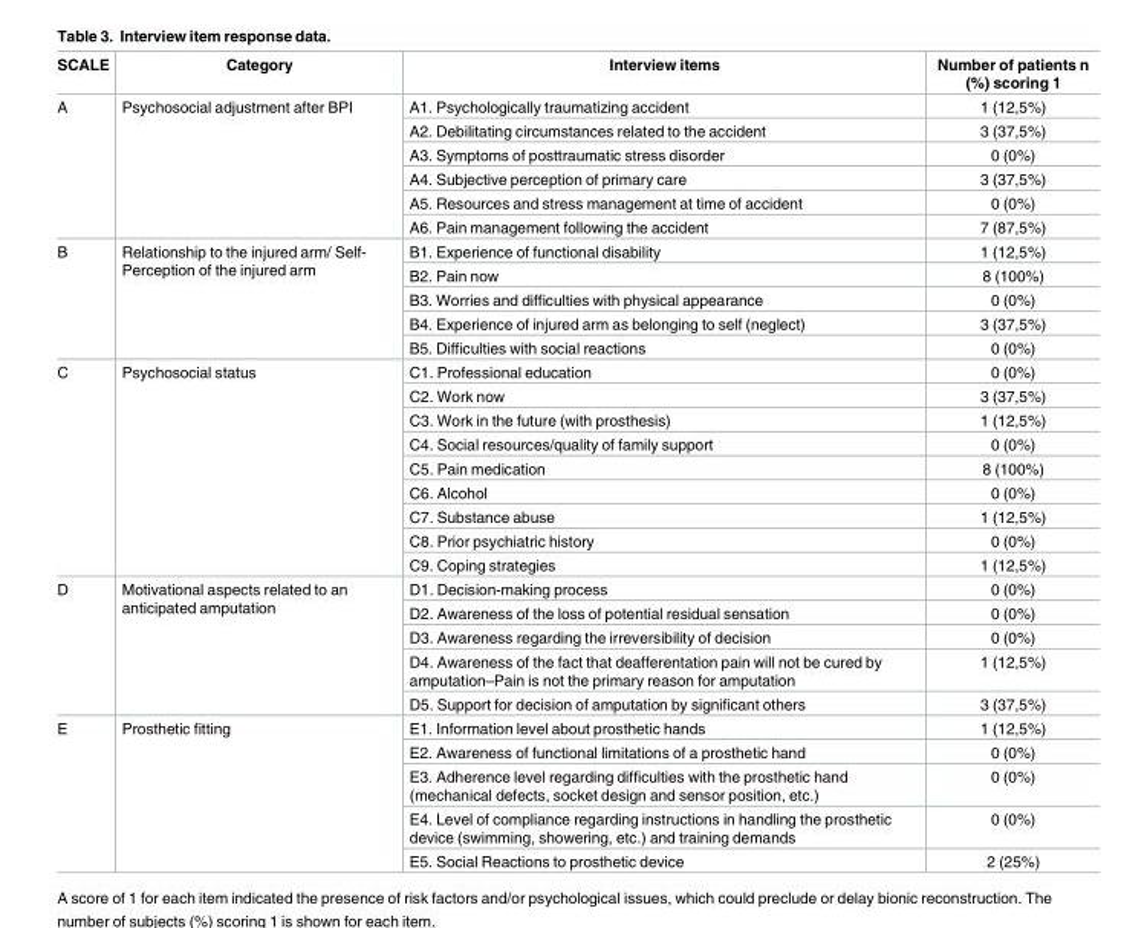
<table><thead><tr><td>SCALE</td><td>Category</td><td>Interview items</td><td>Number of patients n (%) scoring 1</td></tr></thead><tbody><tr><td rowspan="6">A</td><td rowspan="6">Psychosocial adjustment after BPI</td><td>A1. Psychologically traumatizing accident</td><td>1 (12,5%)</td></tr><tr><td>A2. Debilitating circumstances related to the accident</td><td>3 (37,5%)</td></tr><tr><td>A3. Symptoms of posttraumatic stress disorder</td><td>0 (0%)</td></tr><tr><td>A4. Subjective perception of primary care</td><td>3 (37,5%)</td></tr><tr><td>A5. Resources and stress management at time of accident</td><td>0 (0%)</td></tr><tr><td>A6. Pain management following the accident</td><td>7 (87,5%)</td></tr><tr><td rowspan="5">B</td><td rowspan="5">Relationship to the injured arm/ Self- Perception of the injured arm</td><td>B1. Experience of functional disability</td><td>1 (12,5%)</td></tr><tr><td>B2. Pain now</td><td>8 (100%)</td></tr><tr><td>B3. Worries and difficulties with physical appearance</td><td>0 (0%)</td></tr><tr><td>B4. Experience of injured arm as belonging to self (neglect)</td><td>3 (37,5%)</td></tr><tr><td>B5. Difficulties with social reactions</td><td>0 (0%)</td></tr><tr><td rowspan="9">C</td><td rowspan="9">Psychosocial status</td><td>C1. Professional education</td><td>0 (0%)</td></tr><tr><td>C2. Work now</td><td>3 (37,5%)</td></tr><tr><td>C3. Work in the future (with prosthesis)</td><td>1 (12,5%)</td></tr><tr><td>C4. Social resources/quality of family support</td><td>0 (0%)</td></tr><tr><td>C5. Pain medication</td><td>8 (100%)</td></tr><tr><td>C6. Alcohol</td><td>0 (0%)</td></tr><tr><td>C7. Substance abuse</td><td>1 (12,5%)</td></tr><tr><td>C8. Prior psychiatric history</td><td>0 (0%)</td></tr><tr><td>C9. Coping strategies</td><td>1 (12,5%)</td></tr><tr><td rowspan="5">D</td><td rowspan="5">Motivational aspects related to an anticipated amputation</td><td>D1. Decision-making process</td><td>0 (0%)</td></tr><tr><td>D2. Awareness of the loss of potential residual sensation</td><td>0 (0%)</td></tr><tr><td>D3. Awareness regarding the irreversibility of decision</td><td>0 (0%)</td></tr><tr><td>D4. Awareness of the fact that deafferentation pain will not be cured by amputation–Pain is not the primary reason for amputation</td><td>1 (12,5%)</td></tr><tr><td>D5. Support for decision of amputation by significant others</td><td>3 (37,5%)</td></tr><tr><td rowspan="5">E</td><td rowspan="5">Prosthetic fitting</td><td>E1. Information level about prosthetic hands</td><td>1 (12,5%)</td></tr><tr><td>E2. Awareness of functional limitations of a prosthetic hand</td><td>0 (0%)</td></tr><tr><td>E3. Adherence level regarding difficulties with the prosthetic hand (mechanical defects, socket design and sensor position, etc.)</td><td>0 (0%)</td></tr><tr><td>E4. Level of compliance regarding instructions in handling the prosthetic device (swimming, showering, etc.) and training demands</td><td>0 (0%)</td></tr><tr><td>E5. Social Reactions to prosthetic device</td><td>2 (25%)</td></tr></tbody></table>